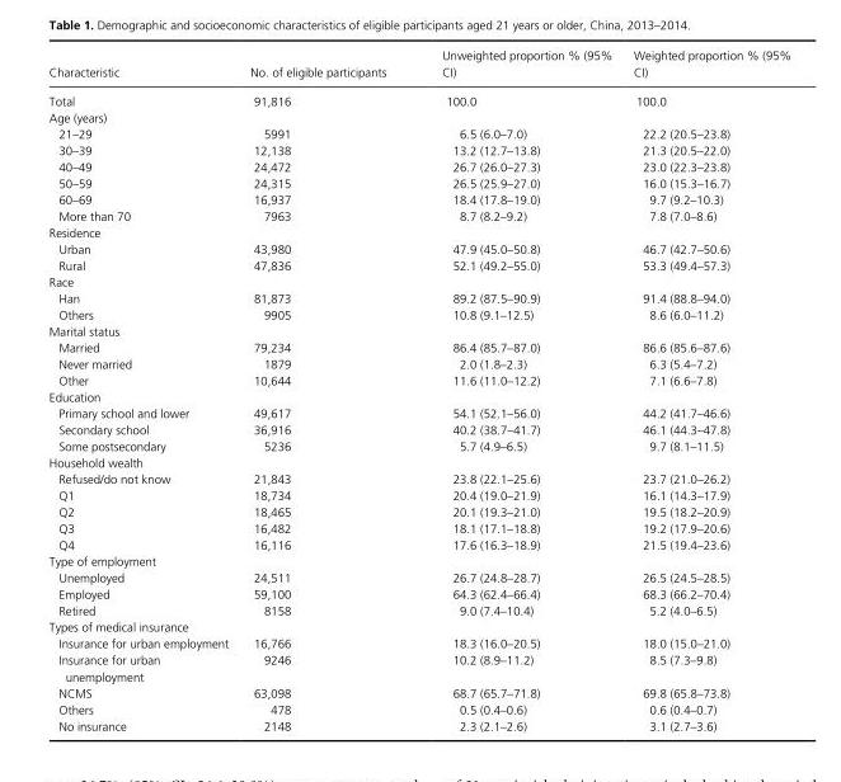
<table><thead><tr><td>Characteristic</td><td>No. of eligible participants</td><td>Unweighted proportion % (95% CI)</td><td>Weighted proportion % (95% CI)</td></tr></thead><tbody><tr><td>Total</td><td>91,816</td><td>100.0</td><td>100.0</td></tr><tr><td colspan="4">Age (years)</td></tr><tr><td>21–29</td><td>5991</td><td>6.5 (6.0–7.0)</td><td>22.2 (20.5–23.8)</td></tr><tr><td>30–39</td><td>12,138</td><td>13.2 (12.7–13.8)</td><td>21.3 (20.5–22.0)</td></tr><tr><td>40–49</td><td>24,472</td><td>26.7 (26.0–27.3)</td><td>23.0 (22.3–23.8)</td></tr><tr><td>50–59</td><td>24,315</td><td>26.5 (25.9–27.0)</td><td>16.0 (15.3–16.7)</td></tr><tr><td>60–69</td><td>16,937</td><td>18.4 (17.8–19.0)</td><td>9.7 (9.2–10.3)</td></tr><tr><td>More than 70</td><td>7963</td><td>8.7 (8.2–9.2)</td><td>7.8 (7.0–8.6)</td></tr><tr><td colspan="4">Residence</td></tr><tr><td>Urban</td><td>43,980</td><td>47.9 (45.0–50.8)</td><td>46.7 (42.7–50.6)</td></tr><tr><td>Rural</td><td>47,836</td><td>52.1 (49.2–55.0)</td><td>53.3 (49.4–57.3)</td></tr><tr><td colspan="4">Race</td></tr><tr><td>Han</td><td>81,873</td><td>89.2 (87.5–90.9)</td><td>91.4 (88.8–94.0)</td></tr><tr><td>Others</td><td>9905</td><td>10.8 (9.1–12.5)</td><td>8.6 (6.0–11.2)</td></tr><tr><td colspan="4">Marital status</td></tr><tr><td>Married</td><td>79,234</td><td>86.4 (85.7–87.0)</td><td>86.6 (85.6–87.6)</td></tr><tr><td>Never married</td><td>1879</td><td>2.0 (1.8–2.3)</td><td>6.3 (5.4–7.2)</td></tr><tr><td>Other</td><td>10,644</td><td>11.6 (11.0–12.2)</td><td>7.1 (6.6–7.8)</td></tr><tr><td colspan="4">Education</td></tr><tr><td>Primary school and lower</td><td>49,617</td><td>54.1 (52.1–56.0)</td><td>44.2 (41.7–46.6)</td></tr><tr><td>Secondary school</td><td>36,916</td><td>40.2 (38.7–41.7)</td><td>46.1 (44.3–47.8)</td></tr><tr><td>Some postsecondary</td><td>5236</td><td>5.7 (4.9–6.5)</td><td>9.7 (8.1–11.5)</td></tr><tr><td colspan="4">Household wealth</td></tr><tr><td>Refused/do not know</td><td>21,843</td><td>23.8 (22.1–25.6)</td><td>23.7 (21.0–26.2)</td></tr><tr><td>Q1</td><td>18,734</td><td>20.4 (19.0–21.9)</td><td>16.1 (14.3–17.9)</td></tr><tr><td>Q2</td><td>18,465</td><td>20.1 (19.3–21.0)</td><td>19.5 (18.2–20.9)</td></tr><tr><td>Q3</td><td>16,482</td><td>18.1 (17.1–18.8)</td><td>19.2 (17.9–20.6)</td></tr><tr><td>Q4</td><td>16,116</td><td>17.6 (16.3–18.9)</td><td>21.5 (19.4–23.6)</td></tr><tr><td colspan="4">Type of employment</td></tr><tr><td>Unemployed</td><td>24,511</td><td>26.7 (24.8–28.7)</td><td>26.5 (24.5–28.5)</td></tr><tr><td>Employed</td><td>59,100</td><td>64.3 (62.4–66.4)</td><td>68.3 (66.2–70.4)</td></tr><tr><td>Retired</td><td>8158</td><td>9.0 (7.4–10.4)</td><td>5.2 (4.0–6.5)</td></tr><tr><td colspan="4">Types of medical insurance</td></tr><tr><td>Insurance for urban employment</td><td>16,766</td><td>18.3 (16.0–20.5)</td><td>18.0 (15.0–21.0)</td></tr><tr><td>Insurance for urban unemployment</td><td>9246</td><td>10.2 (8.9–11.2)</td><td>8.5 (7.3–9.8)</td></tr><tr><td>NCMS</td><td>63,098</td><td>68.7 (65.7–71.8)</td><td>69.8 (65.8–73.8)</td></tr><tr><td>Others</td><td>478</td><td>0.5 (0.4–0.6)</td><td>0.6 (0.4–0.7)</td></tr><tr><td>No insurance</td><td>2148</td><td>2.3 (2.1–2.6)</td><td>3.1 (2.7–3.6)</td></tr></tbody></table>